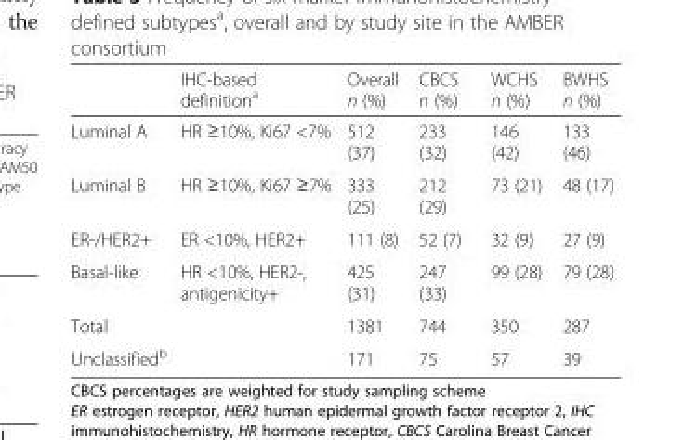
<table><thead><tr><td></td><td>IHC-based definition<sup>a</sup></td><td>Overall n (%)</td><td>CBCS n (%)</td><td>WCHS n (%)</td><td>BWHS n (%)</td></tr></thead><tbody><tr><td>Luminal A</td><td>HR ≥10%, Ki67 &lt;7%</td><td>512 (37)</td><td>233 (32)</td><td>146 (42)</td><td>133 (46)</td></tr><tr><td>Luminal B</td><td>HR ≥10%, Ki67 ≥7%</td><td>333 (25)</td><td>212 (29)</td><td>73 (21)</td><td>48 (17)</td></tr><tr><td>ER-/HER2+</td><td>ER &lt;10%, HER2+</td><td>111 (8)</td><td>52 (7)</td><td>32 (9)</td><td>27 (9)</td></tr><tr><td>Basal-like</td><td>HR &lt;10%, HER2-, antigenicity+</td><td>425 (31)</td><td>247 (33)</td><td>99 (28)</td><td>79 (28)</td></tr><tr><td>Total</td><td></td><td>1381</td><td>744</td><td>350</td><td>287</td></tr><tr><td>Unclassified<sup>b</sup></td><td></td><td>171</td><td>75</td><td>57</td><td>39</td></tr></tbody></table>